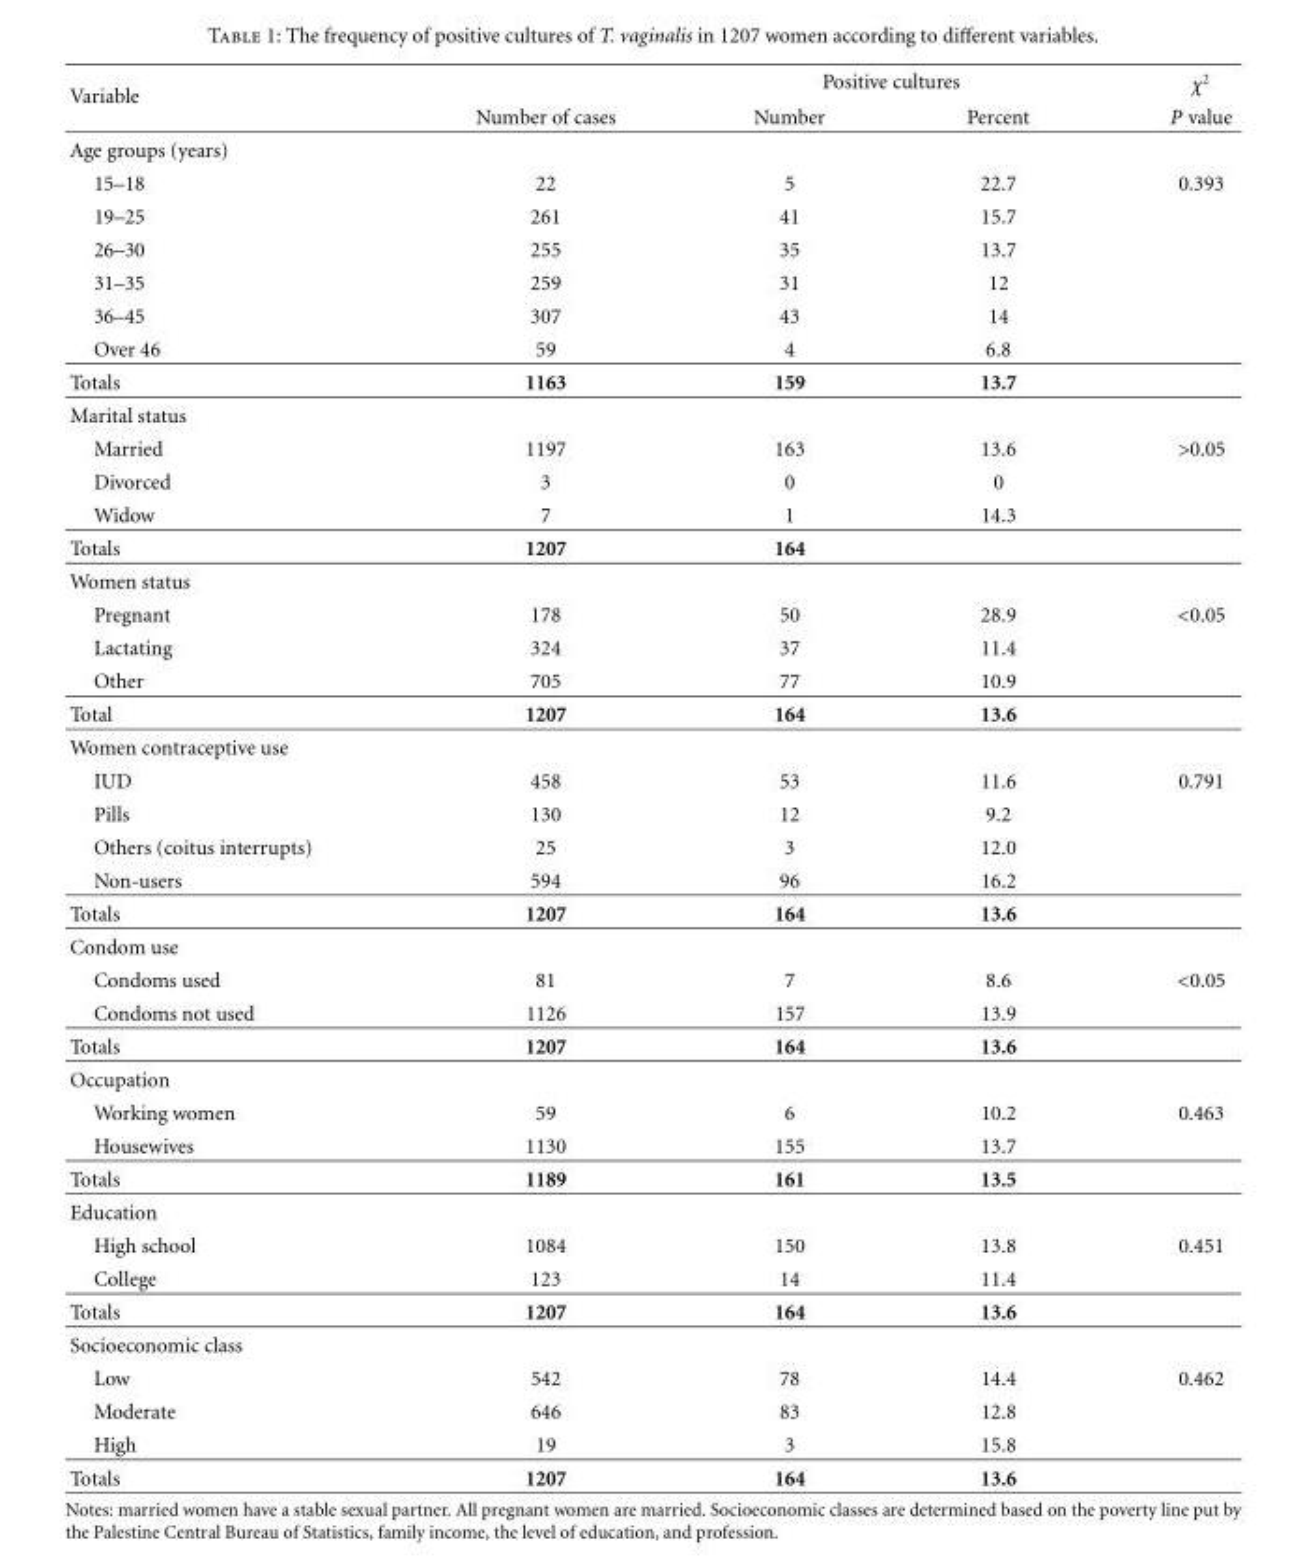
<table><thead><tr><td rowspan="2">Variable</td><td rowspan="2">Number of cases</td><td colspan="2">Positive cultures</td><td rowspan="2">χ<sup>2</sup> P value</td></tr><tr><td>Number</td><td>Percent</td></tr></thead><tbody><tr><td colspan="5">Age groups (years)</td></tr><tr><td>15–18</td><td>22</td><td>5</td><td>22.7</td><td>0.393</td></tr><tr><td>19–25</td><td>261</td><td>41</td><td>15.7</td><td></td></tr><tr><td>26–30</td><td>255</td><td>35</td><td>13.7</td><td></td></tr><tr><td>31–35</td><td>259</td><td>31</td><td>12</td><td></td></tr><tr><td>36–45</td><td>307</td><td>43</td><td>14</td><td></td></tr><tr><td>Over 46</td><td>59</td><td>4</td><td>6.8</td><td></td></tr><tr><td>Totals</td><td>1163</td><td>159</td><td>13.7</td><td></td></tr><tr><td colspan="5">Marital status</td></tr><tr><td>Married</td><td>1197</td><td>163</td><td>13.6</td><td>&gt;0.05</td></tr><tr><td>Divorced</td><td>3</td><td>0</td><td>0</td><td></td></tr><tr><td>Widow</td><td>7</td><td>1</td><td>14.3</td><td></td></tr><tr><td>Totals</td><td>1207</td><td>164</td><td></td><td></td></tr><tr><td colspan="5">Women status</td></tr><tr><td>Pregnant</td><td>178</td><td>50</td><td>28.9</td><td>&lt;0.05</td></tr><tr><td>Lactating</td><td>324</td><td>37</td><td>11.4</td><td></td></tr><tr><td>Other</td><td>705</td><td>77</td><td>10.9</td><td></td></tr><tr><td>Total</td><td>1207</td><td>164</td><td>13.6</td><td></td></tr><tr><td colspan="5">Women contraceptive use</td></tr><tr><td>IUD</td><td>458</td><td>53</td><td>11.6</td><td>0.791</td></tr><tr><td>Pills</td><td>130</td><td>12</td><td>9.2</td><td></td></tr><tr><td>Others (coitus interrupts)</td><td>25</td><td>3</td><td>12.0</td><td></td></tr><tr><td>Non-users</td><td>594</td><td>96</td><td>16.2</td><td></td></tr><tr><td>Totals</td><td>1207</td><td>164</td><td>13.6</td><td></td></tr><tr><td colspan="5">Condom use</td></tr><tr><td>Condoms used</td><td>81</td><td>7</td><td>8.6</td><td>&lt;0.05</td></tr><tr><td>Condoms not used</td><td>1126</td><td>157</td><td>13.9</td><td></td></tr><tr><td>Totals</td><td>1207</td><td>164</td><td>13.6</td><td></td></tr><tr><td colspan="5">Occupation</td></tr><tr><td>Working women</td><td>59</td><td>6</td><td>10.2</td><td>0.463</td></tr><tr><td>Housewives</td><td>1130</td><td>155</td><td>13.7</td><td></td></tr><tr><td>Totals</td><td>1189</td><td>161</td><td>13.5</td><td></td></tr><tr><td colspan="5">Education</td></tr><tr><td>High school</td><td>1084</td><td>150</td><td>13.8</td><td>0.451</td></tr><tr><td>College</td><td>123</td><td>14</td><td>11.4</td><td></td></tr><tr><td>Totals</td><td>1207</td><td>164</td><td>13.6</td><td></td></tr><tr><td colspan="5">Socioeconomic class</td></tr><tr><td>Low</td><td>542</td><td>78</td><td>14.4</td><td>0.462</td></tr><tr><td>Moderate</td><td>646</td><td>83</td><td>12.8</td><td></td></tr><tr><td>High</td><td>19</td><td>3</td><td>15.8</td><td></td></tr><tr><td>Totals</td><td>1207</td><td>164</td><td>13.6</td><td></td></tr></tbody></table>